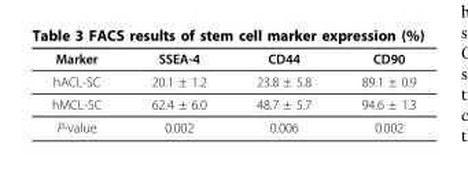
<table><thead><tr><td>Marker</td><td>SSEA-4</td><td>CD44</td><td>CD90</td></tr></thead><tbody><tr><td>hACL-SC</td><td>20.1 ± 1.2</td><td>23.8 ± 5.8</td><td>89.1 ± 0.9</td></tr><tr><td>hMCL-SC</td><td>62.4 ± 6.0</td><td>48.7 ± 5.7</td><td>94.6 ± 1.3</td></tr><tr><td>P-value</td><td>0.002</td><td>0.006</td><td>0.002</td></tr></tbody></table>